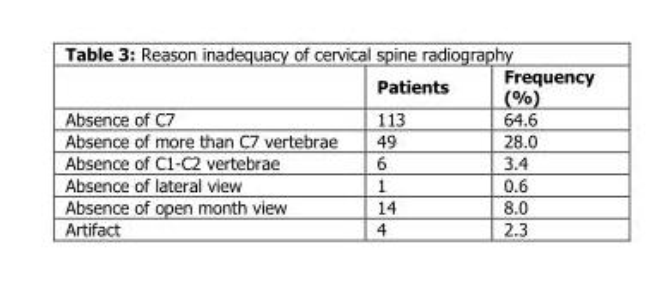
<table><thead><tr><td></td><td>Patients</td><td>Frequency (%)</td></tr></thead><tbody><tr><td>Absence of C7</td><td>113</td><td>64.6</td></tr><tr><td>Absence of more than C7 vertebrae</td><td>49</td><td>28.0</td></tr><tr><td>Absence of C1-C2 vertebrae</td><td>6</td><td>3.4</td></tr><tr><td>Absence of lateral view</td><td>1</td><td>0.6</td></tr><tr><td>Absence of open month view</td><td>14</td><td>8.0</td></tr><tr><td>Artifact</td><td>4</td><td>2.3</td></tr></tbody></table>